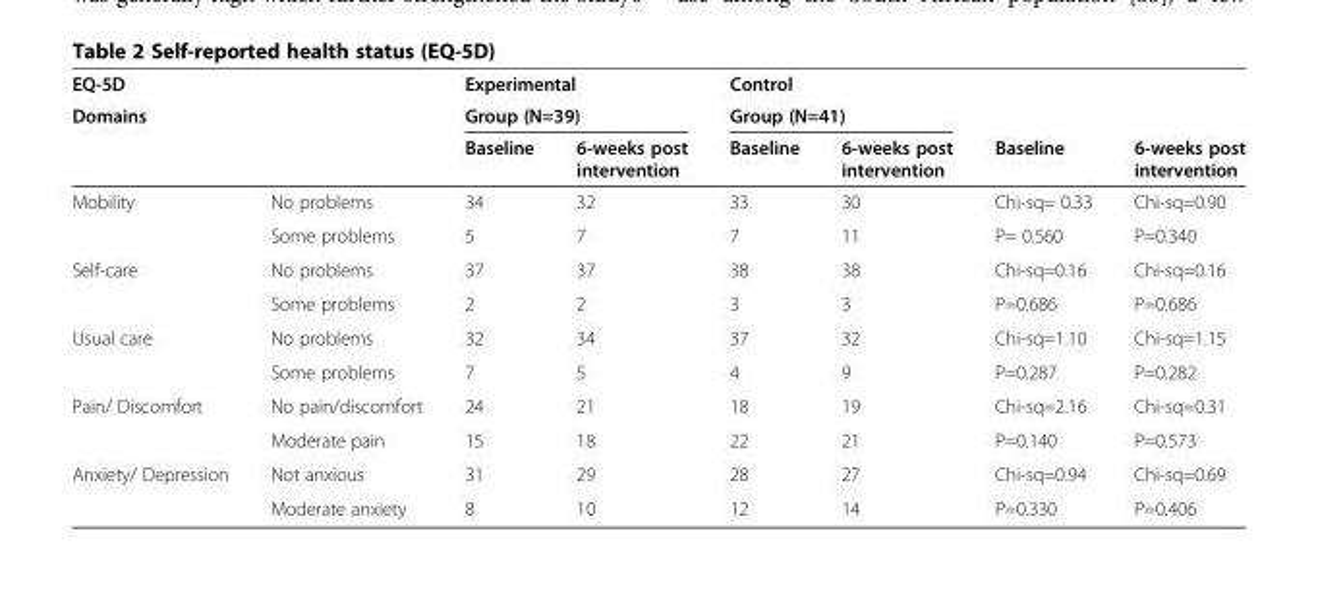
<table><thead><tr><td>EQ-5D</td><td></td><td rowspan="2" colspan="2">Experimental Group (N=39)</td><td rowspan="2" colspan="2">Control Group (N=41)</td><td rowspan="3">Baseline</td><td rowspan="3">6-weeks post intervention</td></tr><tr><td colspan="2">Domains</td></tr><tr><td></td><td></td><td>Baseline</td><td>6-weeks post intervention</td><td>Baseline</td><td>6-weeks post intervention</td></tr></thead><tbody><tr><td rowspan="2">Mobility</td><td>No problems</td><td>34</td><td>32</td><td>33</td><td>30</td><td>Chi-sq= 0.33</td><td>Chi-sq=0.90</td></tr><tr><td>Some problems</td><td>5</td><td>7</td><td>7</td><td>11</td><td>P= 0.560</td><td>P=0.340</td></tr><tr><td rowspan="2">Self-care</td><td>No problems</td><td>37</td><td>37</td><td>38</td><td>38</td><td>Chi-sq=0.16</td><td>Chi-sq=0.16</td></tr><tr><td>Some problems</td><td>2</td><td>2</td><td>3</td><td>3</td><td>P=0.686</td><td>P=0.686</td></tr><tr><td rowspan="2">Usual care</td><td>No problems</td><td>32</td><td>34</td><td>37</td><td>32</td><td>Chi-sq=1.10</td><td>Chi-sq=1.15</td></tr><tr><td>Some problems</td><td>7</td><td>5</td><td>4</td><td>9</td><td>P=0.287</td><td>P=0.282</td></tr><tr><td rowspan="2">Pain/ Discomfort</td><td>No pain/discomfort</td><td>24</td><td>21</td><td>18</td><td>19</td><td>Chi-sq=2.16</td><td>Chi-sq=0.31</td></tr><tr><td>Moderate pain</td><td>15</td><td>18</td><td>22</td><td>21</td><td>P=0.140</td><td>P=0.573</td></tr><tr><td rowspan="2">Anxiety/ Depression</td><td>Not anxious</td><td>31</td><td>29</td><td>28</td><td>27</td><td>Chi-sq=0.94</td><td>Chi-sq=0.69</td></tr><tr><td>Moderate anxiety</td><td>8</td><td>10</td><td>12</td><td>14</td><td>P=0.330</td><td>P=0.406</td></tr></tbody></table>